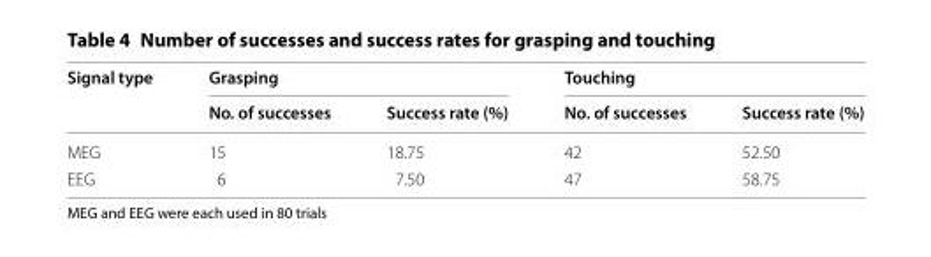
<table><thead><tr><td rowspan="2">Signal type</td><td colspan="2">Grasping</td><td colspan="2">Touching</td></tr><tr><td>No. of successes</td><td>Success rate (%)</td><td>No. of successes</td><td>Success rate (%)</td></tr></thead><tbody><tr><td>MEG</td><td>15</td><td>18.75</td><td>42</td><td>52.50</td></tr><tr><td>EEG</td><td>6</td><td>7.50</td><td>47</td><td>58.75</td></tr></tbody></table>